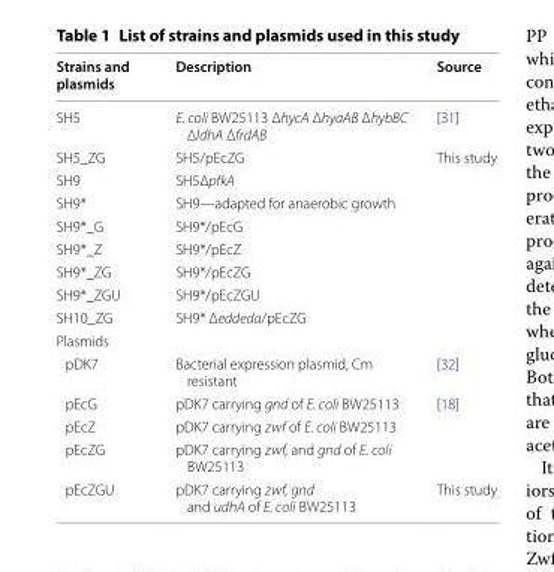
<table><thead><tr><td>Strains and plasmids</td><td>Description</td><td>Source</td></tr></thead><tbody><tr><td>SH5</td><td>E. coli BW25113 ΔhycA ΔhyaAB ΔhybBC ΔldhA ΔfrdAB</td><td>[31]</td></tr><tr><td>SH5_ZG</td><td>SH5/pEcZG</td><td rowspan="8">This study</td></tr><tr><td>SH9</td><td>SH5ΔpfkA</td></tr><tr><td>SH9*</td><td>SH9—adapted for anaerobic growth</td></tr><tr><td>SH9*_G</td><td>SH9*/pEcG</td></tr><tr><td>SH9*_Z</td><td>SH9*/pEcZ</td></tr><tr><td>SH9*_ZG</td><td>SH9*/pEcZG</td></tr><tr><td>SH9*_ZGU</td><td>SH9*/pEcZGU</td></tr><tr><td>SH10_ZG</td><td>SH9* Δeddeda/pEcZG</td></tr><tr><td colspan="3">Plasmids</td></tr><tr><td>pDK7</td><td>Bacterial expression plasmid, Cm resistant</td><td>[32]</td></tr><tr><td>pEcG</td><td>pDK7 carrying gnd of E. coli BW25113</td><td rowspan="3">[18]</td></tr><tr><td>pEcZ</td><td>pDK7 carrying zwf of E. coli BW25113</td></tr><tr><td>pEcZG</td><td>pDK7 carrying zwf, and gnd of E. coli BW25113</td></tr><tr><td>pEcZGU</td><td>pDK7 carrying zwf, gnd and udhA of E. coli BW25113</td><td>This study</td></tr></tbody></table>